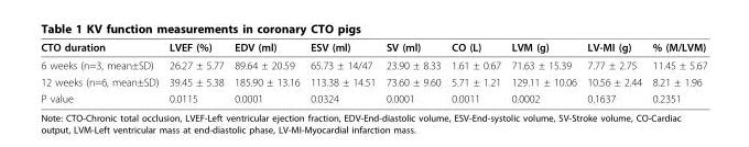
<table><thead><tr><td>CTO duration</td><td>LVEF (%)</td><td>EDV (ml)</td><td>ESV (ml)</td><td>SV (ml)</td><td>CO (L)</td><td>LVM (g)</td><td>LV-MI (g)</td><td>% (M/LVM)</td></tr></thead><tbody><tr><td>6 weeks (n=3, mean±SD)</td><td>26.27 ± 5.77</td><td>89.64 ± 20.59</td><td>65.73 ± 14/47</td><td>23.90 ± 8.33</td><td>1.61 ± 0.67</td><td>71.63 ± 15.39</td><td>7.77 ± 2.75</td><td>11.45 ± 5.67</td></tr><tr><td>12 weeks (n=6, mean±SD)</td><td>39.45 ± 5.38</td><td>185.90 ± 13.16</td><td>113.38 ± 14.51</td><td>73.60 ± 9.60</td><td>5.71 ± 1.21</td><td>129.11 ± 10.06</td><td>10.56 ± 2.44</td><td>8.21 ± 1.96</td></tr><tr><td>P value</td><td>0.0115</td><td>0.0001</td><td>0.0324</td><td>0.0001</td><td>0.0011</td><td>0.0002</td><td>0.1637</td><td>0.2351</td></tr></tbody></table>